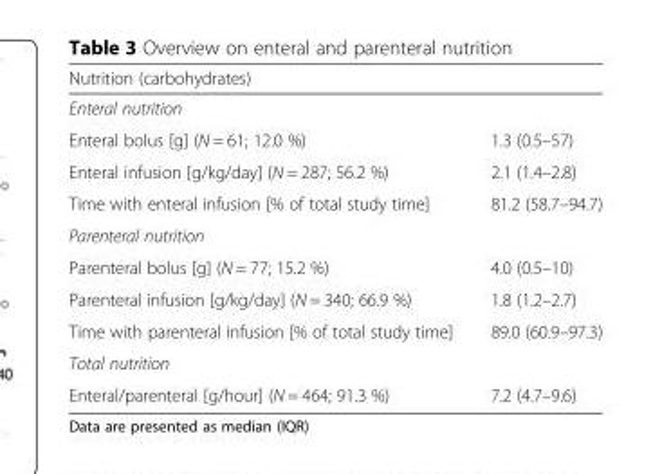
<table><thead><tr><td colspan="2">Nutrition (carbohydrates)</td></tr><tr><td>Enteral nutrition</td><td></td></tr></thead><tbody><tr><td>Enteral bolus [g] (N = 61; 12.0 %)</td><td>1.3 (0.5–57)</td></tr><tr><td>Enteral infusion [g/kg/day] (N = 287; 56.2 %)</td><td>2.1 (1.4–2.8)</td></tr><tr><td>Time with enteral infusion [% of total study time]</td><td>81.2 (58.7–94.7)</td></tr><tr><td colspan="2">Parenteral nutrition</td></tr><tr><td>Parenteral bolus [g] (N = 77; 15.2 %)</td><td>4.0 (0.5–10)</td></tr><tr><td>Parenteral infusion [g/kg/day] (N = 340; 66.9 %)</td><td>1.8 (1.2–2.7)</td></tr><tr><td>Time with parenteral infusion [% of total study time]</td><td>89.0 (60.9–97.3)</td></tr><tr><td colspan="2">Total nutrition</td></tr><tr><td>Enteral/parenteral [g/hour] (N = 464; 91.3 %)</td><td>7.2 (4.7–9.6)</td></tr></tbody></table>